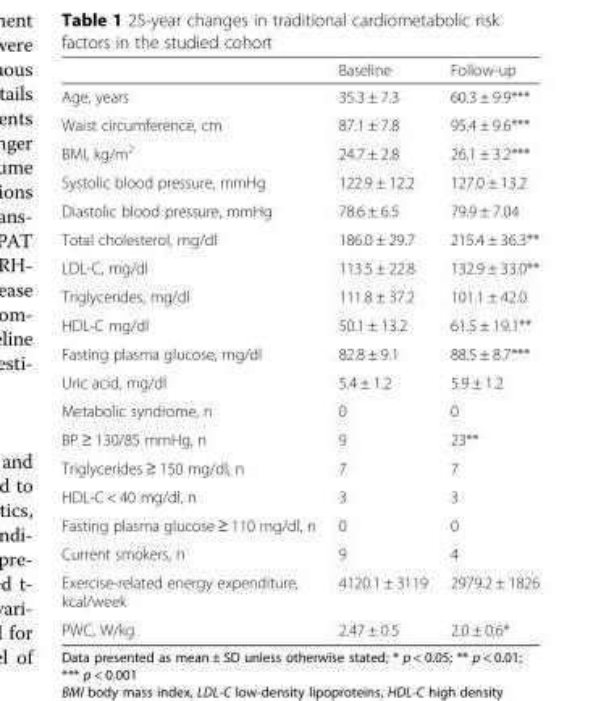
<table><thead><tr><td></td><td>Baseline</td><td>Follow-up</td></tr></thead><tbody><tr><td>Age, years</td><td>35.3 ± 7.3</td><td>60.3 ± 9.9***</td></tr><tr><td>Waist circumference, cm</td><td>87.1 ± 7.8</td><td>95.4 ± 9.6***</td></tr><tr><td>BMI, kg/m<sup>2</sup></td><td>24.7 ± 2.8</td><td>26.1 ± 3.2***</td></tr><tr><td>Systolic blood pressure, mmHg</td><td>122.9 ± 12.2</td><td>127.0 ± 13.2</td></tr><tr><td>Diastolic blood pressure, mmHg</td><td>78.6 ± 6.5</td><td>79.9 ± 7.04</td></tr><tr><td>Total cholesterol, mg/dl</td><td>186.0 ± 29.7</td><td>215.4 ± 36.3**</td></tr><tr><td>LDL-C, mg/dl</td><td>113.5 ± 22.8</td><td>132.9 ± 33.0**</td></tr><tr><td>Triglycerides, mg/dl</td><td>111.8 ± 37.2</td><td>101.1 ± 42.0</td></tr><tr><td>HDL-C mg/dl</td><td>50.1 ± 13.2</td><td>61.5 ± 19.1**</td></tr><tr><td>Fasting plasma glucose, mg/dl</td><td>82.8 ± 9.1</td><td>88.5 ± 8.7***</td></tr><tr><td>Uric acid, mg/dl</td><td>5.4 ± 1.2</td><td>5.9 ± 1.2</td></tr><tr><td>Metabolic syndrome, n</td><td>0</td><td>0</td></tr><tr><td>BP ≥ 130/85 mmHg, n</td><td>9</td><td>23**</td></tr><tr><td>Triglycerides ≥ 150 mg/dl, n</td><td>7</td><td>7</td></tr><tr><td>HDL-C &lt; 40 mg/dl, n</td><td>3</td><td>3</td></tr><tr><td>Fasting plasma glucose ≥ 110 mg/dl, n</td><td>0</td><td>0</td></tr><tr><td>Current smokers, n</td><td>9</td><td>4</td></tr><tr><td>Exercise-related energy expenditure, kcal/week</td><td>4120.1 ± 3119</td><td>2979.2 ± 1826</td></tr><tr><td>PWC, W/kg</td><td>2.47 ± 0.5</td><td>2.0 ± 0.6*</td></tr></tbody></table>